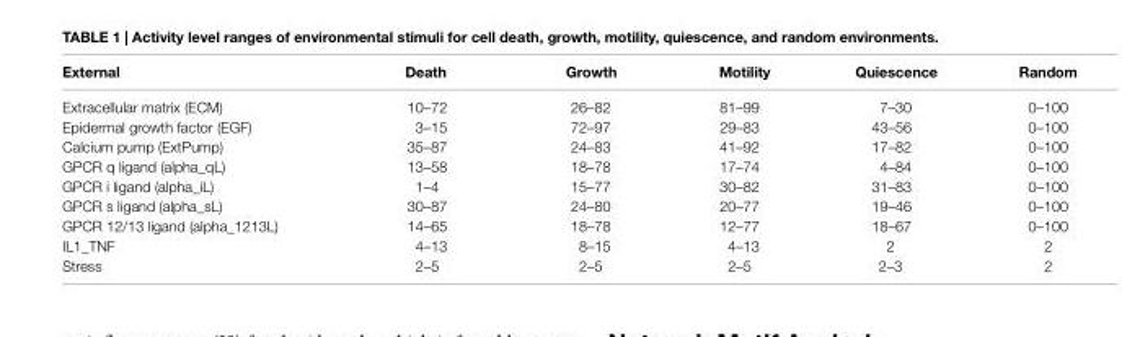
<table><thead><tr><td>external</td><td>Death</td><td>growth</td><td>Motility</td><td>Quiescence</td><td>random</td></tr></thead><tbody><tr><td>Extracellular matrix (ECM)</td><td>10–72</td><td>26–82</td><td>81–99</td><td>7–30</td><td>0–100</td></tr><tr><td>Epidermal growth factor (EGF)</td><td>3–15</td><td>72–97</td><td>29–83</td><td>43–56</td><td>0–100</td></tr><tr><td>Calcium pump (ExtPump)</td><td>35–87</td><td>24–83</td><td>41–92</td><td>17–82</td><td>0–100</td></tr><tr><td>GPCR q ligand (alpha_qL)</td><td>13–58</td><td>18–78</td><td>17–74</td><td>4–84</td><td>0–100</td></tr><tr><td>GPCR i ligand (alpha_iL)</td><td>1–4</td><td>15–77</td><td>30–82</td><td>31–83</td><td>0–100</td></tr><tr><td>GPCR s ligand (alpha_sL)</td><td>30–87</td><td>24–80</td><td>20–77</td><td>19–46</td><td>0–100</td></tr><tr><td>GPCR 12/13 ligand (alpha_1213L)</td><td>14–65</td><td>18–78</td><td>12–77</td><td>18–67</td><td>0–100</td></tr><tr><td>IL1_TNF</td><td>4–13</td><td>8–15</td><td>4–13</td><td>2</td><td>2</td></tr><tr><td>Stress</td><td>2–5</td><td>2–5</td><td>2–5</td><td>2–3</td><td>2</td></tr></tbody></table>